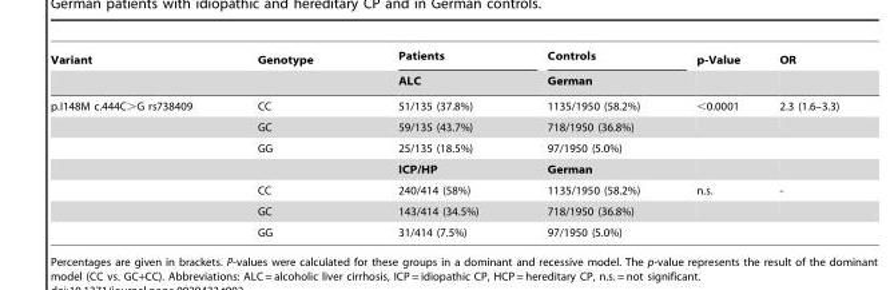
<table><thead><tr><td rowspan="2">Variant</td><td rowspan="2">Genotype</td><td rowspan="2">Patients ALC</td><td rowspan="2">Controls German</td><td rowspan="2">p-Value</td><td rowspan="2">OR</td></tr><tr></tr></thead><tbody><tr><td rowspan="7">p.I148M c.444C&gt;G rs738409</td><td>CC</td><td>51/135 (37.8%)</td><td>1135/1950 (58.2%)</td><td>&lt;0.0001</td><td>2.3 (1.6–3.3)</td></tr><tr><td>GC</td><td>59/135 (43.7%)</td><td>718/1950 (36.8%)</td><td></td><td></td></tr><tr><td>GG</td><td>25/135 (18.5%)</td><td>97/1950 (5.0%)</td><td></td><td></td></tr><tr><td></td><td>ICP/HP</td><td>German</td><td></td><td></td></tr><tr><td>CC</td><td>240/414 (58%)</td><td>1135/1950 (58.2%)</td><td>n.s.</td><td>-</td></tr><tr><td>GC</td><td>143/414 (34.5%)</td><td>718/1950 (36.8%)</td><td></td><td></td></tr><tr><td>GG</td><td>31/414 (7.5%)</td><td>97/1950 (5.0%)</td><td></td><td></td></tr></tbody></table>